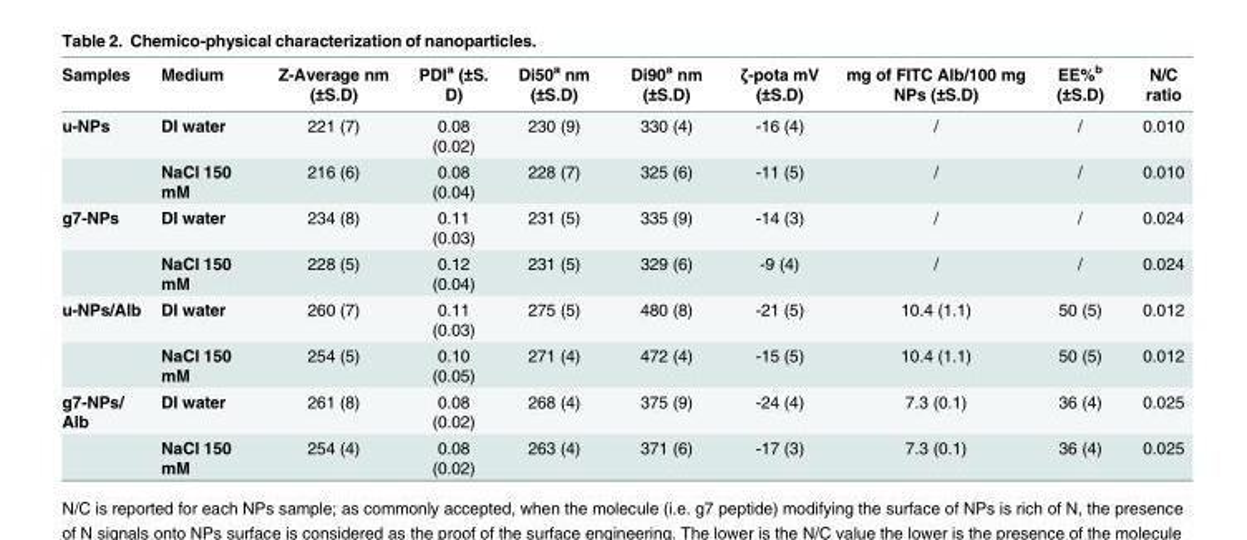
<table><thead><tr><td>Samples</td><td>Medium</td><td>Z-Average nm (±S.D)</td><td>PDI<sup>a</sup> (±S. D)</td><td>Di50<sup>a</sup> nm (±S.D)</td><td>Di90<sup>a</sup> nm (±S.D)</td><td>ζ-pota mV (±S.D)</td><td>mg of FITC Alb/100 mg NPs (±S.D)</td><td>EE%<sup>b</sup> (±S.D)</td><td>N/C ratio</td></tr></thead><tbody><tr><td rowspan="2">u-NPs</td><td>DI water</td><td>221 (7)</td><td>0.08 (0.02)</td><td>230 (9)</td><td>330 (4)</td><td>-16 (4)</td><td>/</td><td>/</td><td>0.010</td></tr><tr><td>NaCl 150 mM</td><td>216 (6)</td><td>0.08 (0.04)</td><td>228 (7)</td><td>325 (6)</td><td>-11 (5)</td><td>/</td><td>/</td><td>0.010</td></tr><tr><td rowspan="2">g7-NPs</td><td>DI water</td><td>234 (8)</td><td>0.11 (0.03)</td><td>231 (5)</td><td>335 (9)</td><td>-14 (3)</td><td>/</td><td>/</td><td>0.024</td></tr><tr><td>NaCl 150 mM</td><td>228 (5)</td><td>0.12 (0.04)</td><td>231 (5)</td><td>329 (6)</td><td>-9 (4)</td><td>/</td><td>/</td><td>0.024</td></tr><tr><td rowspan="2">u-NPs/Alb</td><td>DI water</td><td>260 (7)</td><td>0.11 (0.03)</td><td>275 (5)</td><td>480 (8)</td><td>-21 (5)</td><td>10.4 (1.1)</td><td>50 (5)</td><td>0.012</td></tr><tr><td>NaCl 150 mM</td><td>254 (5)</td><td>0.10 (0.05)</td><td>271 (4)</td><td>472 (4)</td><td>-15 (5)</td><td>10.4 (1.1)</td><td>50 (5)</td><td>0.012</td></tr><tr><td rowspan="2">g7-NPs/ Alb</td><td>DI water</td><td>261 (8)</td><td>0.08 (0.02)</td><td>268 (4)</td><td>375 (9)</td><td>-24 (4)</td><td>7.3 (0.1)</td><td>36 (4)</td><td>0.025</td></tr><tr><td>NaCl 150 mM</td><td>254 (4)</td><td>0.08 (0.02)</td><td>263 (4)</td><td>371 (6)</td><td>-17 (3)</td><td>7.3 (0.1)</td><td>36 (4)</td><td>0.025</td></tr></tbody></table>